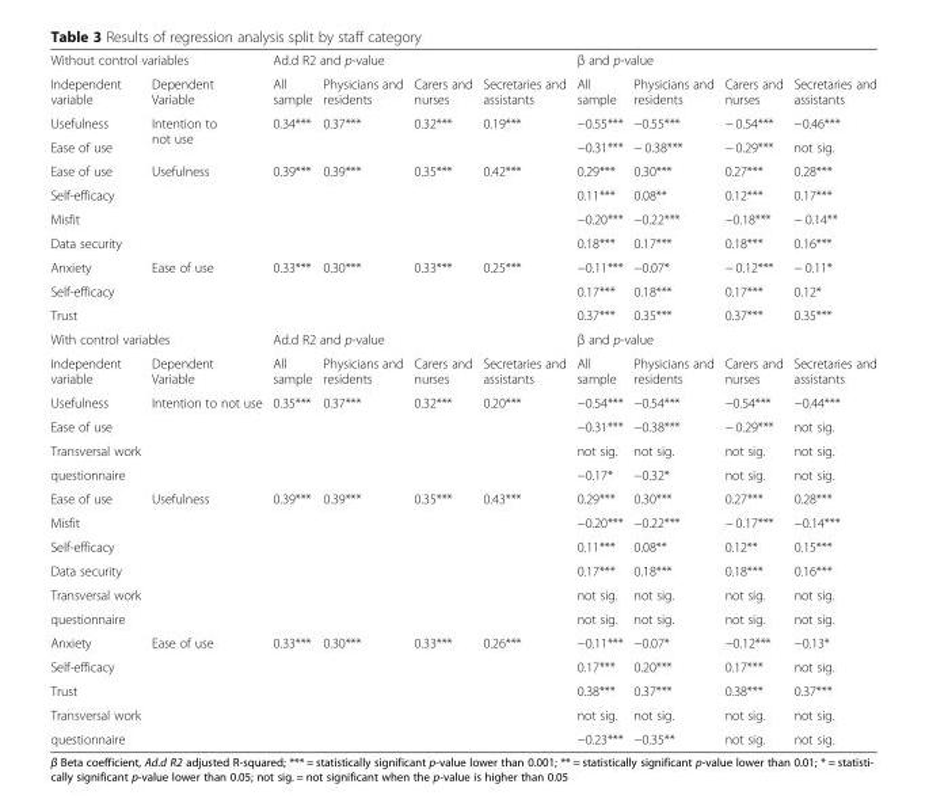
<table><tbody><tr><td colspan="2">Without control variables</td><td colspan="4">Ad.d R2 and p-value</td><td colspan="4">β and p-value</td></tr><tr><td>Independent variable</td><td>Dependent Variable</td><td>All sample</td><td>Physicians and residents</td><td>Carers and nurses</td><td>Secretaries and assistants</td><td>All sample</td><td>Physicians and residents</td><td>Carers and nurses</td><td>Secretaries and assistants</td></tr><tr><td>Usefulness</td><td rowspan="2">Intention to not use</td><td rowspan="2">0.34***</td><td rowspan="2">0.37***</td><td rowspan="2">0.32***</td><td rowspan="2">0.19***</td><td>−0.55***</td><td>−0.55***</td><td>− 0.54***</td><td>−0.46***</td></tr><tr><td>Ease of use</td><td>−0.31***</td><td>− 0.38***</td><td>− 0.29***</td><td>not sig.</td></tr><tr><td>Ease of use</td><td rowspan="4">Usefulness</td><td rowspan="4">0.39***</td><td rowspan="4">0.39***</td><td rowspan="4">0.35***</td><td rowspan="4">0.42***</td><td>0.29***</td><td>0.30***</td><td>0.27***</td><td>0.28***</td></tr><tr><td>Self-efficacy</td><td>0.11***</td><td>0.08**</td><td>0.12***</td><td>0.17***</td></tr><tr><td>Misfit</td><td>−0.20***</td><td>−0.22***</td><td>−0.18***</td><td>− 0.14**</td></tr><tr><td>Data security</td><td>0.18***</td><td>0.17***</td><td>0.18***</td><td>0.16***</td></tr><tr><td>Anxiety</td><td rowspan="3">Ease of use</td><td rowspan="3">0.33***</td><td rowspan="3">0.30***</td><td rowspan="3">0.33***</td><td rowspan="3">0.25***</td><td>−0.11***</td><td>−0.07*</td><td>− 0.12***</td><td>− 0.11*</td></tr><tr><td>Self-efficacy</td><td>0.17***</td><td>0.18***</td><td>0.17***</td><td>0.12*</td></tr><tr><td>Trust</td><td>0.37***</td><td>0.35***</td><td>0.37***</td><td>0.35***</td></tr><tr><td colspan="2">With control variables</td><td colspan="4">Ad.d R2 and p-value</td><td colspan="4">β and p-value</td></tr><tr><td>Independent variable</td><td>Dependent Variable</td><td>All sample</td><td>Physicians and residents</td><td>Carers and nurses</td><td>Secretaries and assistants</td><td>All sample</td><td>Physicians and residents</td><td>Carers and nurses</td><td>Secretaries and assistants</td></tr><tr><td>Usefulness</td><td rowspan="4">Intention to not use</td><td rowspan="4">0.35***</td><td rowspan="4">0.37***</td><td rowspan="4">0.32***</td><td rowspan="4">0.20***</td><td>−0.54***</td><td>−0.54***</td><td>−0.54***</td><td>−0.44***</td></tr><tr><td>Ease of use</td><td>−0.31***</td><td>−0.38***</td><td>− 0.29***</td><td>not sig.</td></tr><tr><td>Transversal work</td><td>not sig.</td><td>not sig.</td><td>not sig.</td><td>not sig.</td></tr><tr><td>questionnaire</td><td>−0.17*</td><td>−0.32*</td><td>not sig.</td><td>not sig.</td></tr><tr><td>Ease of use</td><td rowspan="6">Usefulness</td><td rowspan="6">0.39***</td><td rowspan="6">0.39***</td><td rowspan="6">0.35***</td><td rowspan="6">0.43***</td><td>0.29***</td><td>0.30***</td><td>0.27***</td><td>0.28***</td></tr><tr><td>Misfit</td><td>−0.20***</td><td>−0.22***</td><td>− 0.17***</td><td>−0.14***</td></tr><tr><td>Self-efficacy</td><td>0.11***</td><td>0.08**</td><td>0.12**</td><td>0.15***</td></tr><tr><td>Data security</td><td>0.17***</td><td>0.18***</td><td>0.18***</td><td>0.16***</td></tr><tr><td>Transversal work</td><td>not sig.</td><td>not sig.</td><td>not sig.</td><td>not sig.</td></tr><tr><td>questionnaire</td><td>not sig.</td><td>not sig.</td><td>not sig.</td><td>not sig.</td></tr><tr><td>Anxiety</td><td rowspan="5">Ease of use</td><td rowspan="5">0.33***</td><td rowspan="5">0.30***</td><td rowspan="5">0.33***</td><td rowspan="5">0.26***</td><td>−0.11***</td><td>−0.07*</td><td>−0.12***</td><td>−0.13*</td></tr><tr><td>Self-efficacy</td><td>0.17***</td><td>0.20***</td><td>0.17***</td><td>not sig.</td></tr><tr><td>Trust</td><td>0.38***</td><td>0.37***</td><td>0.38***</td><td>0.37***</td></tr><tr><td>Transversal work</td><td>not sig.</td><td>not sig.</td><td>not sig.</td><td>not sig.</td></tr><tr><td>questionnaire</td><td>−0.23***</td><td>−0.35**</td><td>not sig.</td><td>not sig.</td></tr></tbody></table>